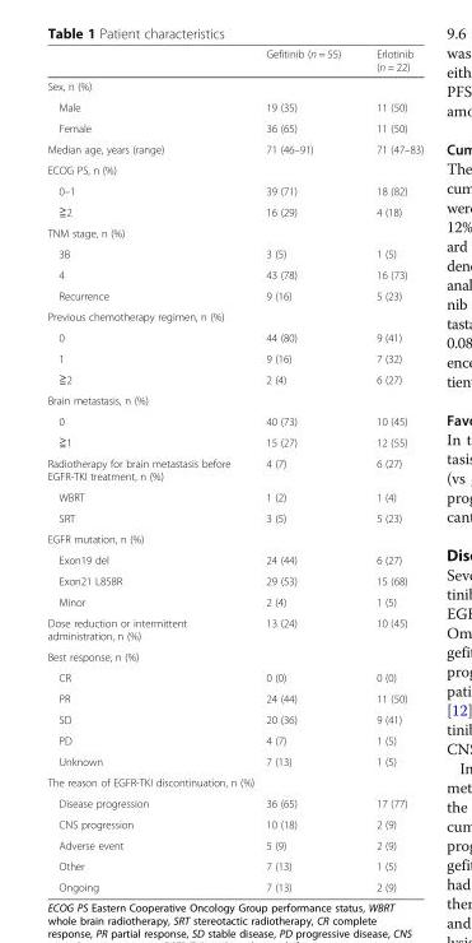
<table><thead><tr><td></td><td>Gefitinib (n = 55)</td><td>Erlotinib (n = 22)</td></tr></thead><tbody><tr><td colspan="3">Sex, n (%)</td></tr><tr><td>Male</td><td>19 (35)</td><td>11 (50)</td></tr><tr><td>Female</td><td>36 (65)</td><td>11 (50)</td></tr><tr><td>Median age, years (range)</td><td>71 (46–91)</td><td>71 (47–83)</td></tr><tr><td colspan="3">ECOG PS, n (%)</td></tr><tr><td>0–1</td><td>39 (71)</td><td>18 (82)</td></tr><tr><td>≧2</td><td>16 (29)</td><td>4 (18)</td></tr><tr><td colspan="3">TNM stage, n (%)</td></tr><tr><td>3B</td><td>3 (5)</td><td>1 (5)</td></tr><tr><td>4</td><td>43 (78)</td><td>16 (73)</td></tr><tr><td>Recurrence</td><td>9 (16)</td><td>5 (23)</td></tr><tr><td colspan="3">Previous chemotherapy regimen, n (%)</td></tr><tr><td>0</td><td>44 (80)</td><td>9 (41)</td></tr><tr><td>1</td><td>9 (16)</td><td>7 (32)</td></tr><tr><td>≧2</td><td>2 (4)</td><td>6 (27)</td></tr><tr><td colspan="3">Brain metastasis, n (%)</td></tr><tr><td>0</td><td>40 (73)</td><td>10 (45)</td></tr><tr><td>≧1</td><td>15 (27)</td><td>12 (55)</td></tr><tr><td>Radiotherapy for brain metastasis before EGFR-TKI treatment, n (%)</td><td>4 (7)</td><td>6 (27)</td></tr><tr><td>WBRT</td><td>1 (2)</td><td>1 (4)</td></tr><tr><td>SRT</td><td>3 (5)</td><td>5 (23)</td></tr><tr><td colspan="3">EGFR mutation, n (%)</td></tr><tr><td>Exon19 del</td><td>24 (44)</td><td>6 (27)</td></tr><tr><td>Exon21 L858R</td><td>29 (53)</td><td>15 (68)</td></tr><tr><td>Minor</td><td>2 (4)</td><td>1 (5)</td></tr><tr><td>Dose reduction or intermittent administration, n (%)</td><td>13 (24)</td><td>10 (45)</td></tr><tr><td colspan="3">Best response, n (%)</td></tr><tr><td>CR</td><td>0 (0)</td><td>0 (0)</td></tr><tr><td>PR</td><td>24 (44)</td><td>11 (50)</td></tr><tr><td>SD</td><td>20 (36)</td><td>9 (41)</td></tr><tr><td>PD</td><td>4 (7)</td><td>1 (5)</td></tr><tr><td>Unknown</td><td>7 (13)</td><td>1 (5)</td></tr><tr><td colspan="3">The reason of EGFR-TKI discontinuation, n (%)</td></tr><tr><td>Disease progression</td><td>36 (65)</td><td>17 (77)</td></tr><tr><td>CNS progression</td><td>10 (18)</td><td>2 (9)</td></tr><tr><td>Adverse event</td><td>5 (9)</td><td>2 (9)</td></tr><tr><td>Other</td><td>7 (13)</td><td>1 (5)</td></tr><tr><td>Ongoing</td><td>7 (13)</td><td>2 (9)</td></tr></tbody></table>